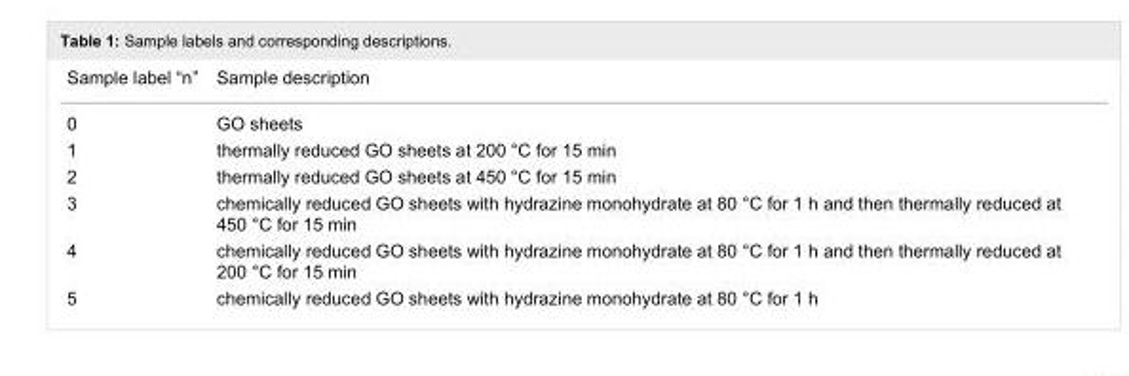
<table><tbody><tr><td>Sample label “n”</td><td>Sample description</td></tr><tr><td>0</td><td>GO sheets</td></tr><tr><td>1</td><td>thermally reduced GO sheets at 200 °C for 15 min</td></tr><tr><td>2</td><td>thermally reduced GO sheets at 450 °C for 15 min</td></tr><tr><td>3</td><td>chemically reduced GO sheets with hydrazine monohydrate at 80 °C for 1 h and then thermally reduced at 450 °C for 15 min</td></tr><tr><td>4</td><td>chemically reduced GO sheets with hydrazine monohydrate at 80 °C for 1 h and then thermally reduced at 200 °C for 15 min</td></tr><tr><td>5</td><td>chemically reduced GO sheets with hydrazine monohydrate at 80 °C for 1 h</td></tr></tbody></table>